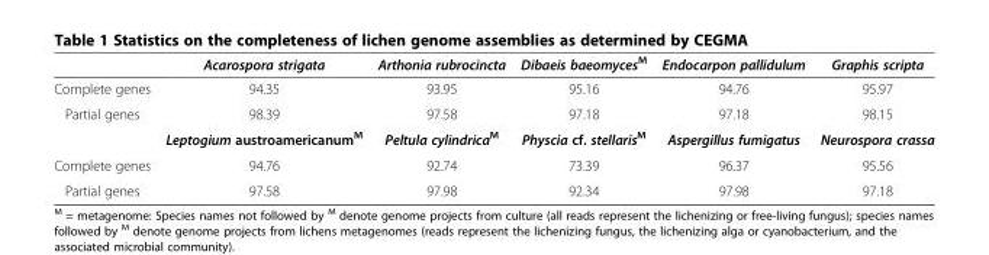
<table><thead><tr><td></td><td>Acarospora strigata</td><td>Arthonia rubrocincta</td><td>Dibaeis baeomyces<sup>M</sup></td><td>Endocarpon pallidulum</td><td>Graphis scripta</td></tr></thead><tbody><tr><td>Complete genes</td><td>94.35</td><td>93.95</td><td>95.16</td><td>94.76</td><td>95.97</td></tr><tr><td rowspan="2">Partial genes</td><td>98.39</td><td>97.58</td><td>97.18</td><td>97.18</td><td>98.15</td></tr><tr><td>Leptogium austroamericanumM</td><td>Peltula cylindrica<sup>M</sup></td><td>Physcia cf. stellaris<sup>M</sup></td><td>Aspergillus fumigatus</td><td>Neurospora crassa</td></tr><tr><td>Complete genes</td><td>94.76</td><td>92.74</td><td>73.39</td><td>96.37</td><td>95.56</td></tr><tr><td>Partial genes</td><td>97.58</td><td>97.98</td><td>92.34</td><td>97.98</td><td>97.18</td></tr></tbody></table>